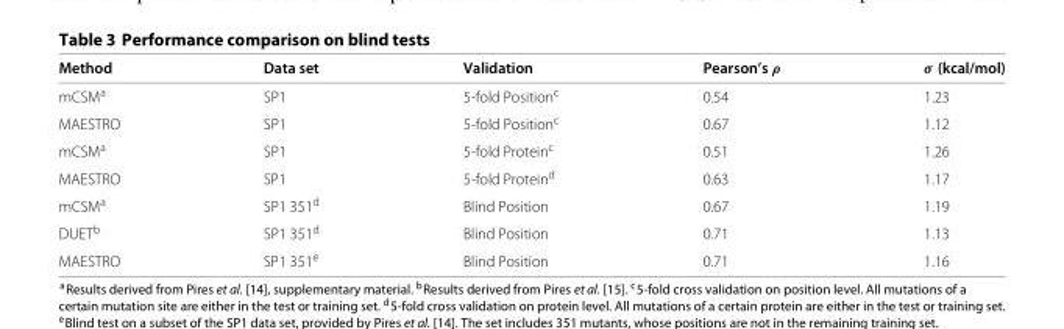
<table><thead><tr><td>Method</td><td>Data set</td><td>Validation</td><td>Pearson’s ρ</td><td>σ (kcal/mol)</td></tr></thead><tbody><tr><td>mCSM<sup>a</sup></td><td>SP1</td><td>5-fold Position<sup>c</sup></td><td>0.54</td><td>1.23</td></tr><tr><td>MAESTRO</td><td>SP1</td><td>5-fold Position<sup>c</sup></td><td>0.67</td><td>1.12</td></tr><tr><td>mCSM<sup>a</sup></td><td>SP1</td><td>5-fold Protein<sup>c</sup></td><td>0.51</td><td>1.26</td></tr><tr><td>MAESTRO</td><td>SP1</td><td>5-fold Protein<sup>d</sup></td><td>0.63</td><td>1.17</td></tr><tr><td>mCSM<sup>a</sup></td><td>SP1 351<sup>d</sup></td><td>Blind Position</td><td>0.67</td><td>1.19</td></tr><tr><td>DUET<sup>b</sup></td><td>SP1 351<sup>d</sup></td><td>Blind Position</td><td>0.71</td><td>1.13</td></tr><tr><td>MAESTRO</td><td>SP1 351<sup>e</sup></td><td>Blind Position</td><td>0.71</td><td>1.16</td></tr></tbody></table>